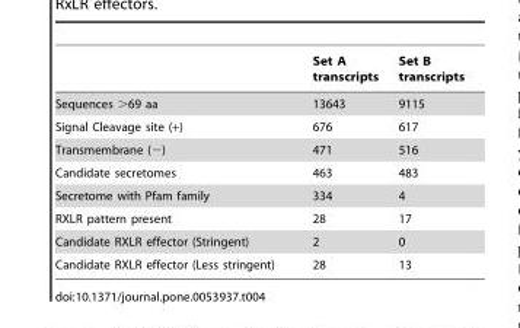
<table><thead><tr><td></td><td>Set A transcripts</td><td>Set B transcripts</td></tr></thead><tbody><tr><td>Sequences &gt;69 aa</td><td>13643</td><td>9115</td></tr><tr><td>Signal Cleavage site (+)</td><td>676</td><td>617</td></tr><tr><td>Transmembrane (−)</td><td>471</td><td>516</td></tr><tr><td>Candidate secretomes</td><td>463</td><td>483</td></tr><tr><td>Secretome with Pfam family</td><td>334</td><td>4</td></tr><tr><td>RXLR pattern present</td><td>28</td><td>17</td></tr><tr><td>Candidate RXLR effector (Stringent)</td><td>2</td><td>0</td></tr><tr><td>Candidate RXLR effector (Less stringent)</td><td>28</td><td>13</td></tr></tbody></table>